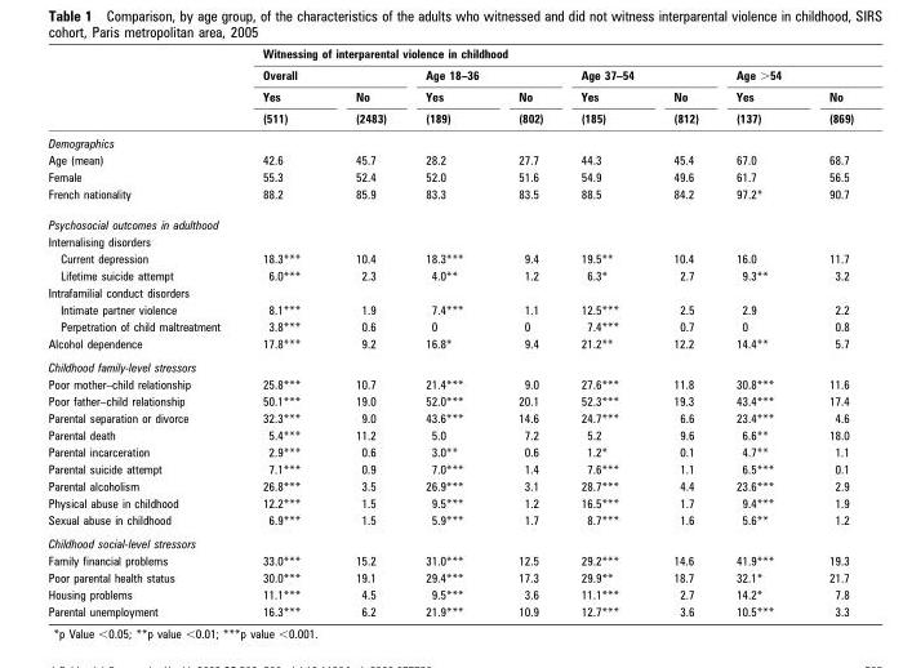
<table><thead><tr><td rowspan="4"></td><td colspan="8">Witnessing of interparental violence in childhood</td></tr><tr><td colspan="2">Overall</td><td colspan="2">Age 18–36</td><td colspan="2">Age 37–54</td><td colspan="2">Age &gt;54</td></tr><tr><td rowspan="2">Yes (511)</td><td rowspan="2">No (2483)</td><td rowspan="2">Yes (189)</td><td rowspan="2">No (802)</td><td rowspan="2">Yes (185)</td><td rowspan="2">No (812)</td><td rowspan="2">Yes (137)</td><td rowspan="2">No (869)</td></tr><tr></tr></thead><tbody><tr><td colspan="9">Demographics</td></tr><tr><td>Age (mean)</td><td>42.6</td><td>45.7</td><td>28.2</td><td>27.7</td><td>44.3</td><td>45.4</td><td>67.0</td><td>68.7</td></tr><tr><td>Female</td><td>55.3</td><td>52.4</td><td>52.0</td><td>51.6</td><td>54.9</td><td>49.6</td><td>61.7</td><td>56.5</td></tr><tr><td>French nationality</td><td>88.2</td><td>85.9</td><td>83.3</td><td>83.5</td><td>88.5</td><td>84.2</td><td>97.2*</td><td>90.7</td></tr><tr><td colspan="9">Psychosocial outcomes in adulthood</td></tr><tr><td colspan="9">Internalising disorders</td></tr><tr><td>Current depression</td><td>18.3***</td><td>10.4</td><td>18.3***</td><td>9.4</td><td>19.5**</td><td>10.4</td><td>16.0</td><td>11.7</td></tr><tr><td>Lifetime suicide attempt</td><td>6.0***</td><td>2.3</td><td>4.0**</td><td>1.2</td><td>6.3*</td><td>2.7</td><td>9.3**</td><td>3.2</td></tr><tr><td colspan="9">Intrafamilial conduct disorders</td></tr><tr><td>Intimate partner violence</td><td>8.1***</td><td>1.9</td><td>7.4***</td><td>1.1</td><td>12.5***</td><td>2.5</td><td>2.9</td><td>2.2</td></tr><tr><td>Perpetration of child maltreatment</td><td>3.8***</td><td>0.6</td><td>0</td><td>0</td><td>7.4***</td><td>0.7</td><td>0</td><td>0.8</td></tr><tr><td>Alcohol dependence</td><td>17.8***</td><td>9.2</td><td>16.8*</td><td>9.4</td><td>21.2**</td><td>12.2</td><td>14.4**</td><td>5.7</td></tr><tr><td colspan="9">Childhood family-level stressors</td></tr><tr><td>Poor mother–child relationship</td><td>25.8***</td><td>10.7</td><td>21.4***</td><td>9.0</td><td>27.6***</td><td>11.8</td><td>30.8***</td><td>11.6</td></tr><tr><td>Poor father–child relationship</td><td>50.1***</td><td>19.0</td><td>52.0***</td><td>20.1</td><td>52.3***</td><td>19.3</td><td>43.4***</td><td>17.4</td></tr><tr><td>Parental separation or divorce</td><td>32.3***</td><td>9.0</td><td>43.6***</td><td>14.6</td><td>24.7***</td><td>6.6</td><td>23.4***</td><td>4.6</td></tr><tr><td>Parental death</td><td>5.4***</td><td>11.2</td><td>5.0</td><td>7.2</td><td>5.2</td><td>9.6</td><td>6.6**</td><td>18.0</td></tr><tr><td>Parental incarceration</td><td>2.9***</td><td>0.6</td><td>3.0**</td><td>0.6</td><td>1.2*</td><td>0.1</td><td>4.7**</td><td>1.1</td></tr><tr><td>Parental suicide attempt</td><td>7.1***</td><td>0.9</td><td>7.0***</td><td>1.4</td><td>7.6***</td><td>1.1</td><td>6.5***</td><td>0.1</td></tr><tr><td>Parental alcoholism</td><td>26.8***</td><td>3.5</td><td>26.9***</td><td>3.1</td><td>28.7***</td><td>4.4</td><td>23.6***</td><td>2.9</td></tr><tr><td>Physical abuse in childhood</td><td>12.2***</td><td>1.5</td><td>9.5***</td><td>1.2</td><td>16.5***</td><td>1.7</td><td>9.4***</td><td>1.9</td></tr><tr><td>Sexual abuse in childhood</td><td>6.9***</td><td>1.5</td><td>5.9***</td><td>1.7</td><td>8.7***</td><td>1.6</td><td>5.6**</td><td>1.2</td></tr><tr><td colspan="9">Childhood social-level stressors</td></tr><tr><td>Family financial problems</td><td>33.0***</td><td>15.2</td><td>31.0***</td><td>12.5</td><td>29.2***</td><td>14.6</td><td>41.9***</td><td>19.3</td></tr><tr><td>Poor parental health status</td><td>30.0***</td><td>19.1</td><td>29.4***</td><td>17.3</td><td>29.9**</td><td>18.7</td><td>32.1*</td><td>21.7</td></tr><tr><td>Housing problems</td><td>11.1***</td><td>4.5</td><td>9.5***</td><td>3.6</td><td>11.1***</td><td>2.7</td><td>14.2*</td><td>7.8</td></tr><tr><td>Parental unemployment</td><td>16.3***</td><td>6.2</td><td>21.9***</td><td>10.9</td><td>12.7***</td><td>3.6</td><td>10.5***</td><td>3.3</td></tr></tbody></table>